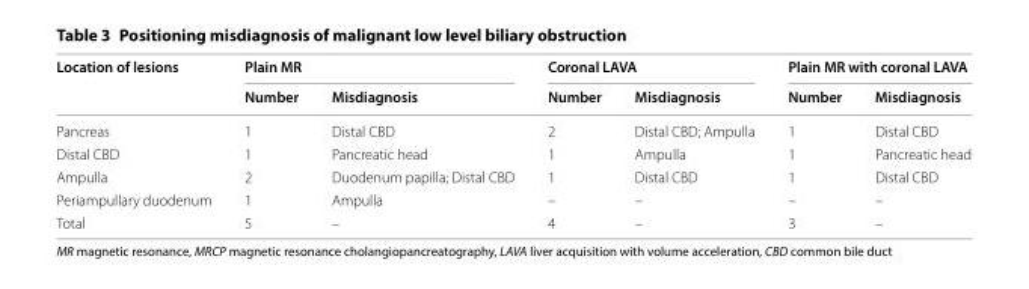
<table><thead><tr><td rowspan="2">Location of lesions</td><td colspan="2">Plain MR</td><td colspan="2">Coronal LAVA</td><td colspan="2">Plain MR with coronal LAVA</td></tr><tr><td>Number</td><td>Misdiagnosis</td><td>Number</td><td>Misdiagnosis</td><td>Number</td><td>Misdiagnosis</td></tr></thead><tbody><tr><td>Pancreas</td><td>1</td><td>Distal CBD</td><td>2</td><td>Distal CBD; Ampulla</td><td>1</td><td>Distal CBD</td></tr><tr><td>Distal CBD</td><td>1</td><td>Pancreatic head</td><td>1</td><td>Ampulla</td><td>1</td><td>Pancreatic head</td></tr><tr><td>Ampulla</td><td>2</td><td>Duodenum papilla; Distal CBD</td><td>1</td><td>Distal CBD</td><td>1</td><td>Distal CBD</td></tr><tr><td>Periampullary duodenum</td><td>1</td><td>Ampulla</td><td>–</td><td>–</td><td>–</td><td>–</td></tr><tr><td>Total</td><td>5</td><td>–</td><td>4</td><td>–</td><td>3</td><td>–</td></tr></tbody></table>